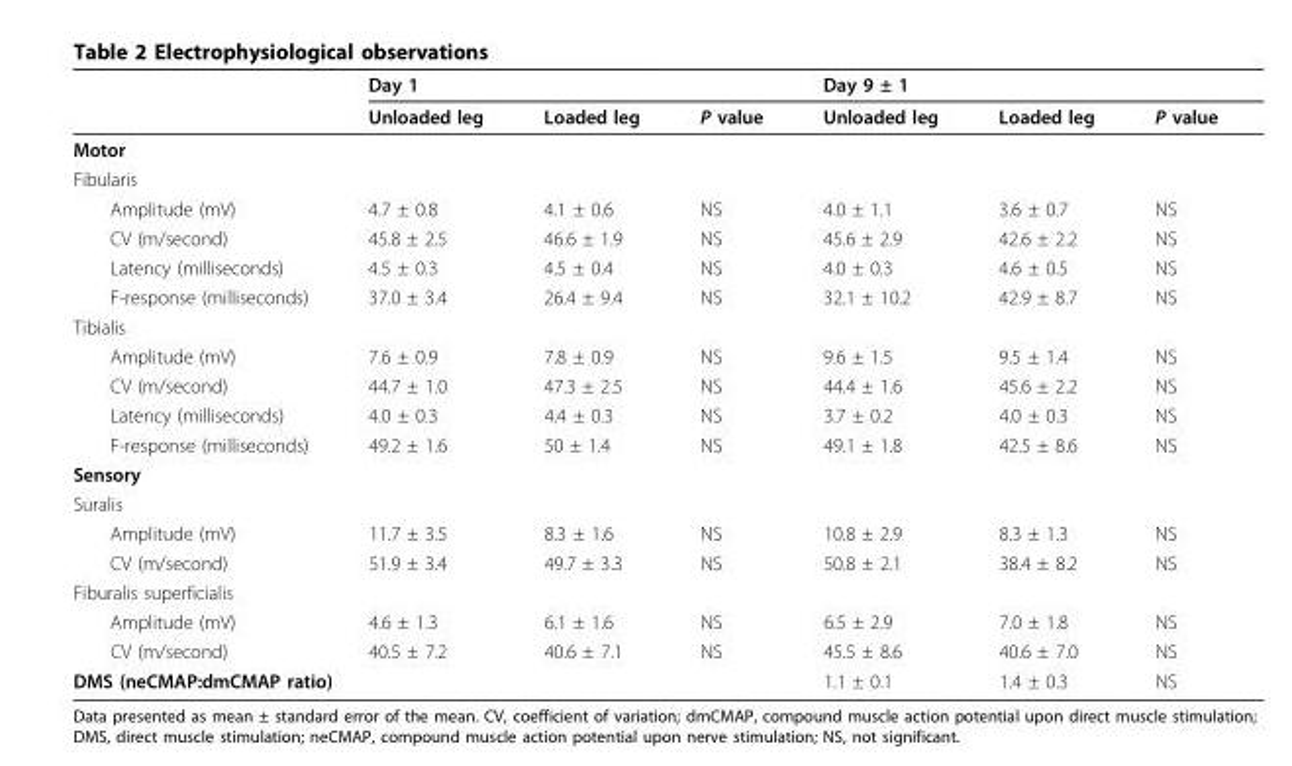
<table><thead><tr><td rowspan="2"></td><td rowspan="2">Day 1 Unloaded leg</td><td rowspan="2">Loaded leg</td><td rowspan="2">P value</td><td rowspan="2">Day 9 ± 1 Unloaded leg</td><td rowspan="2">Loaded leg</td><td rowspan="2">P value</td></tr><tr></tr></thead><tbody><tr><td colspan="7">Motor</td></tr><tr><td colspan="7">Fibularis</td></tr><tr><td>Amplitude (mV)</td><td>4.7 ± 0.8</td><td>4.1 ± 0.6</td><td>NS</td><td>4.0 ± 1.1</td><td>3.6 ± 0.7</td><td>NS</td></tr><tr><td>CV (m/second)</td><td>45.8 ± 2.5</td><td>46.6 ± 1.9</td><td>NS</td><td>45.6 ± 2.9</td><td>42.6 ± 2.2</td><td>NS</td></tr><tr><td>Latency (milliseconds)</td><td>4.5 ± 0.3</td><td>4.5 ± 0.4</td><td>NS</td><td>4.0 ± 0.3</td><td>4.6 ± 0.5</td><td>NS</td></tr><tr><td>F-response (milliseconds)</td><td>37.0 ± 3.4</td><td>26.4 ± 9.4</td><td>NS</td><td>32.1 ± 10.2</td><td>42.9 ± 8.7</td><td>NS</td></tr><tr><td colspan="7">Tibialis</td></tr><tr><td>Amplitude (mV)</td><td>7.6 ± 0.9</td><td>7.8 ± 0.9</td><td>NS</td><td>9.6 ± 1.5</td><td>9.5 ± 1.4</td><td>NS</td></tr><tr><td>CV (m/second)</td><td>44.7 ± 1.0</td><td>47.3 ± 2.5</td><td>NS</td><td>44.4 ± 1.6</td><td>45.6 ± 2.2</td><td>NS</td></tr><tr><td>Latency (milliseconds)</td><td>4.0 ± 0.3</td><td>4.4 ± 0.3</td><td>NS</td><td>3.7 ± 0.2</td><td>4.0 ± 0.3</td><td>NS</td></tr><tr><td>F-response (milliseconds)</td><td>49.2 ± 1.6</td><td>50 ± 1.4</td><td>NS</td><td>49.1 ± 1.8</td><td>42.5 ± 8.6</td><td>NS</td></tr><tr><td colspan="7">Sensory</td></tr><tr><td colspan="7">Suralis</td></tr><tr><td>Amplitude (mV)</td><td>11.7 ± 3.5</td><td>8.3 ± 1.6</td><td>NS</td><td>10.8 ± 2.9</td><td>8.3 ± 1.3</td><td>NS</td></tr><tr><td>CV (m/second)</td><td>51.9 ± 3.4</td><td>49.7 ± 3.3</td><td>NS</td><td>50.8 ± 2.1</td><td>38.4 ± 8.2</td><td>NS</td></tr><tr><td colspan="7">Fiburalis superficialis</td></tr><tr><td>Amplitude (mV)</td><td>4.6 ± 1.3</td><td>6.1 ± 1.6</td><td>NS</td><td>6.5 ± 2.9</td><td>7.0 ± 1.8</td><td>NS</td></tr><tr><td>CV (m/second)</td><td>40.5 ± 7.2</td><td>40.6 ± 7.1</td><td>NS</td><td>45.5 ± 8.6</td><td>40.6 ± 7.0</td><td>NS</td></tr><tr><td colspan="2">DMS (neCMAP:dmCMAP ratio)</td><td></td><td></td><td>1.1 ± 0.1</td><td>1.4 ± 0.3</td><td>NS</td></tr></tbody></table>